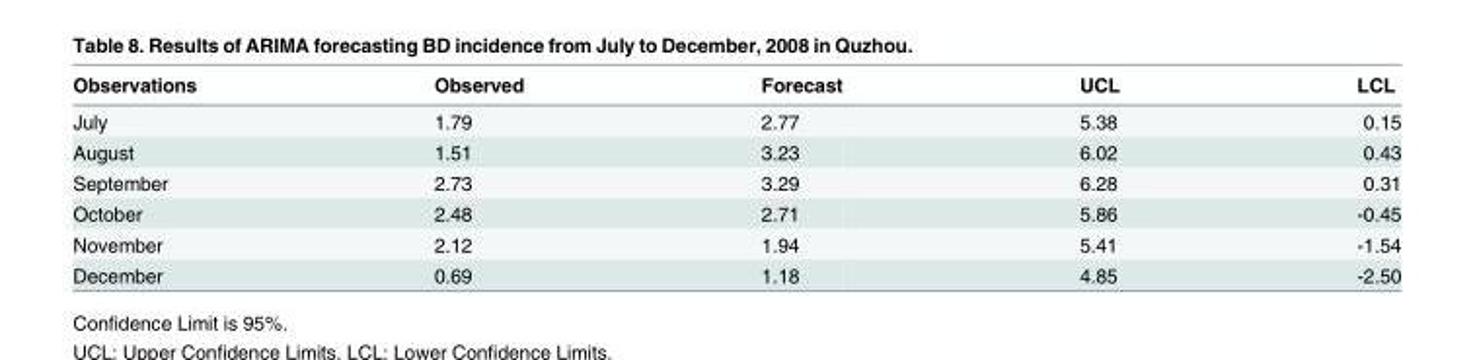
<table><thead><tr><td>Observations</td><td>Observed</td><td>Forecast</td><td>UCL</td><td>LCL</td></tr></thead><tbody><tr><td>July</td><td>1.79</td><td>2.77</td><td>5.38</td><td>0.15</td></tr><tr><td>August</td><td>1.51</td><td>3.23</td><td>6.02</td><td>0.43</td></tr><tr><td>September</td><td>2.73</td><td>3.29</td><td>6.28</td><td>0.31</td></tr><tr><td>October</td><td>2.48</td><td>2.71</td><td>5.86</td><td>-0.45</td></tr><tr><td>November</td><td>2.12</td><td>1.94</td><td>5.41</td><td>-1.54</td></tr><tr><td>December</td><td>0.69</td><td>1.18</td><td>4.85</td><td>-2.50</td></tr></tbody></table>